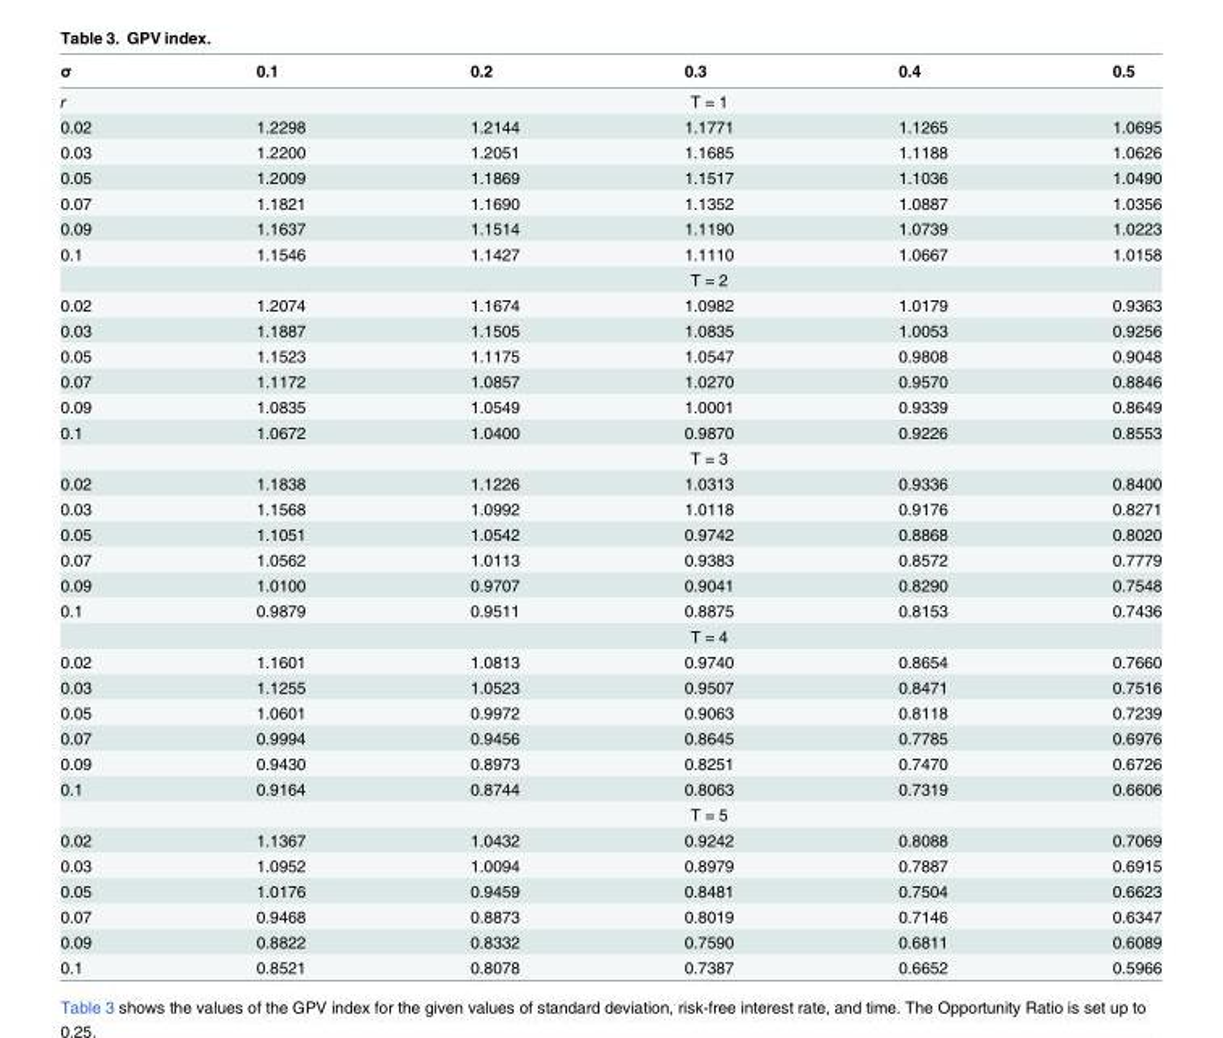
<table><thead><tr><td>σ</td><td>0.1</td><td>0.2</td><td>0.3</td><td>0.4</td><td>0.5</td></tr></thead><tbody><tr><td>r</td><td colspan="5">T = 1</td></tr><tr><td>0.02</td><td>1.2298</td><td>1.2144</td><td>1.1771</td><td>1.1265</td><td>1.0695</td></tr><tr><td>0.03</td><td>1.2200</td><td>1.2051</td><td>1.1685</td><td>1.1188</td><td>1.0626</td></tr><tr><td>0.05</td><td>1.2009</td><td>1.1869</td><td>1.1517</td><td>1.1036</td><td>1.0490</td></tr><tr><td>0.07</td><td>1.1821</td><td>1.1690</td><td>1.1352</td><td>1.0887</td><td>1.0356</td></tr><tr><td>0.09</td><td>1.1637</td><td>1.1514</td><td>1.1190</td><td>1.0739</td><td>1.0223</td></tr><tr><td rowspan="2">0.1</td><td>1.1546</td><td>1.1427</td><td>1.1110</td><td>1.0667</td><td>1.0158</td></tr><tr><td colspan="5">T = 2</td></tr><tr><td>0.02</td><td>1.2074</td><td>1.1674</td><td>1.0982</td><td>1.0179</td><td>0.9363</td></tr><tr><td>0.03</td><td>1.1887</td><td>1.1505</td><td>1.0835</td><td>1.0053</td><td>0.9256</td></tr><tr><td>0.05</td><td>1.1523</td><td>1.1175</td><td>1.0547</td><td>0.9808</td><td>0.9048</td></tr><tr><td>0.07</td><td>1.1172</td><td>1.0857</td><td>1.0270</td><td>0.9570</td><td>0.8846</td></tr><tr><td>0.09</td><td>1.0835</td><td>1.0549</td><td>1.0001</td><td>0.9339</td><td>0.8649</td></tr><tr><td rowspan="2">0.1</td><td>1.0672</td><td>1.0400</td><td>0.9870</td><td>0.9226</td><td>0.8553</td></tr><tr><td colspan="5">T = 3</td></tr><tr><td>0.02</td><td>1.1838</td><td>1.1226</td><td>1.0313</td><td>0.9336</td><td>0.8400</td></tr><tr><td>0.03</td><td>1.1568</td><td>1.0992</td><td>1.0118</td><td>0.9176</td><td>0.8271</td></tr><tr><td>0.05</td><td>1.1051</td><td>1.0542</td><td>0.9742</td><td>0.8868</td><td>0.8020</td></tr><tr><td>0.07</td><td>1.0562</td><td>1.0113</td><td>0.9383</td><td>0.8572</td><td>0.7779</td></tr><tr><td>0.09</td><td>1.0100</td><td>0.9707</td><td>0.9041</td><td>0.8290</td><td>0.7548</td></tr><tr><td rowspan="2">0.1</td><td>0.9879</td><td>0.9511</td><td>0.8875</td><td>0.8153</td><td>0.7436</td></tr><tr><td colspan="5">T = 4</td></tr><tr><td>0.02</td><td>1.1601</td><td>1.0813</td><td>0.9740</td><td>0.8654</td><td>0.7660</td></tr><tr><td>0.03</td><td>1.1255</td><td>1.0523</td><td>0.9507</td><td>0.8471</td><td>0.7516</td></tr><tr><td>0.05</td><td>1.0601</td><td>0.9972</td><td>0.9063</td><td>0.8118</td><td>0.7239</td></tr><tr><td>0.07</td><td>0.9994</td><td>0.9456</td><td>0.8645</td><td>0.7785</td><td>0.6976</td></tr><tr><td>0.09</td><td>0.9430</td><td>0.8973</td><td>0.8251</td><td>0.7470</td><td>0.6726</td></tr><tr><td rowspan="2">0.1</td><td>0.9164</td><td>0.8744</td><td>0.8063</td><td>0.7319</td><td>0.6606</td></tr><tr><td colspan="5">T = 5</td></tr><tr><td>0.02</td><td>1.1367</td><td>1.0432</td><td>0.9242</td><td>0.8088</td><td>0.7069</td></tr><tr><td>0.03</td><td>1.0952</td><td>1.0094</td><td>0.8979</td><td>0.7887</td><td>0.6915</td></tr><tr><td>0.05</td><td>1.0176</td><td>0.9459</td><td>0.8481</td><td>0.7504</td><td>0.6623</td></tr><tr><td>0.07</td><td>0.9468</td><td>0.8873</td><td>0.8019</td><td>0.7146</td><td>0.6347</td></tr><tr><td>0.09</td><td>0.8822</td><td>0.8332</td><td>0.7590</td><td>0.6811</td><td>0.6089</td></tr><tr><td>0.1</td><td>0.8521</td><td>0.8078</td><td>0.7387</td><td>0.6652</td><td>0.5966</td></tr></tbody></table>